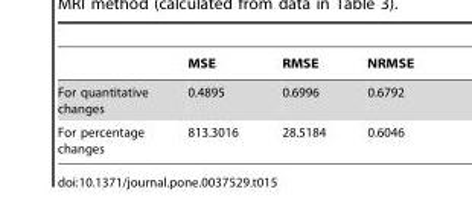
<table><thead><tr><td></td><td>MSE</td><td>RMSE</td><td>NRMSE</td></tr></thead><tbody><tr><td>For quantitative changes</td><td>0.4895</td><td>0.6996</td><td>0.6792</td></tr><tr><td>For percentage changes</td><td>813.3016</td><td>28.5184</td><td>0.6046</td></tr></tbody></table>